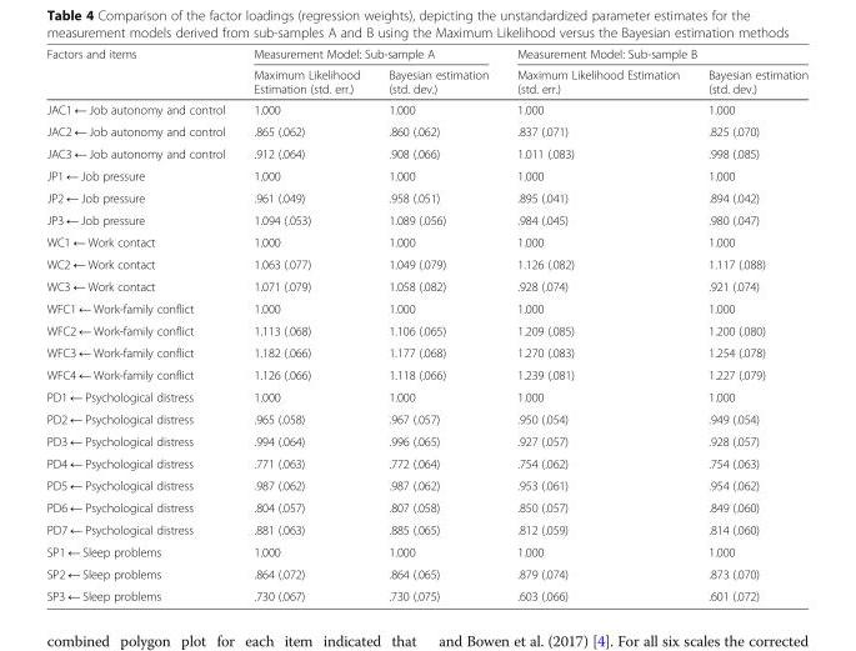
<table><thead><tr><td rowspan="2">Factors and items</td><td colspan="2">Measurement Model: Sub-sample A</td><td colspan="2">Measurement Model: Sub-sample B</td></tr><tr><td>Maximum Likelihood Estimation (std. err.)</td><td>Bayesian estimation (std. dev.)</td><td>Maximum Likelihood Estimation (std. err.)</td><td>Bayesian estimation (std. dev.)</td></tr></thead><tbody><tr><td>JAC1 ← Job autonomy and control</td><td>1.000</td><td>1.000</td><td>1.000</td><td>1.000</td></tr><tr><td>JAC2 ← Job autonomy and control</td><td>.865 (.062)</td><td>.860 (.062)</td><td>.837 (.071)</td><td>.825 (.070)</td></tr><tr><td>JAC3 ← Job autonomy and control</td><td>.912 (.064)</td><td>.908 (.066)</td><td>1.011 (.083)</td><td>.998 (.085)</td></tr><tr><td>JP1 ← Job pressure</td><td>1.000</td><td>1.000</td><td>1.000</td><td>1.000</td></tr><tr><td>JP2 ← Job pressure</td><td>.961 (.049)</td><td>.958 (.051)</td><td>.895 (.041)</td><td>.894 (.042)</td></tr><tr><td>JP3 ← Job pressure</td><td>1.094 (.053)</td><td>1.089 (.056)</td><td>.984 (.045)</td><td>.980 (.047)</td></tr><tr><td>WC1 ← Work contact</td><td>1.000</td><td>1.000</td><td>1.000</td><td>1.000</td></tr><tr><td>WC2 ← Work contact</td><td>1.063 (.077)</td><td>1.049 (.079)</td><td>1.126 (.082)</td><td>1.117 (.088)</td></tr><tr><td>WC3 ← Work contact</td><td>1.071 (.079)</td><td>1.058 (.082)</td><td>.928 (.074)</td><td>.921 (.074)</td></tr><tr><td>WFC1 ← Work-family conflict</td><td>1.000</td><td>1.000</td><td>1.000</td><td>1.000</td></tr><tr><td>WFC2 ← Work-family conflict</td><td>1.113 (.068)</td><td>1.106 (.065)</td><td>1.209 (.085)</td><td>1.200 (.080)</td></tr><tr><td>WFC3 ← Work-family conflict</td><td>1.182 (.066)</td><td>1.177 (.068)</td><td>1.270 (.083)</td><td>1.254 (.078)</td></tr><tr><td>WFC4 ← Work-family conflict</td><td>1.126 (.066)</td><td>1.118 (.066)</td><td>1.239 (.081)</td><td>1.227 (.079)</td></tr><tr><td>PD1 ← Psychological distress</td><td>1.000</td><td>1.000</td><td>1.000</td><td>1.000</td></tr><tr><td>PD2 ← Psychological distress</td><td>.965 (.058)</td><td>.967 (.057)</td><td>.950 (.054)</td><td>.949 (.054)</td></tr><tr><td>PD3 ← Psychological distress</td><td>.994 (.064)</td><td>.996 (.065)</td><td>.927 (.057)</td><td>.928 (.057)</td></tr><tr><td>PD4 ← Psychological distress</td><td>.771 (.063)</td><td>.772 (.064)</td><td>.754 (.062)</td><td>.754 (.063)</td></tr><tr><td>PD5 ← Psychological distress</td><td>.987 (.062)</td><td>.987 (.062)</td><td>.953 (.061)</td><td>.954 (.062)</td></tr><tr><td>PD6 ← Psychological distress</td><td>.804 (.057)</td><td>.807 (.058)</td><td>.850 (.057)</td><td>.849 (.060)</td></tr><tr><td>PD7 ← Psychological distress</td><td>.881 (.063)</td><td>.885 (.065)</td><td>.812 (.059)</td><td>.814 (.060)</td></tr><tr><td>SP1 ← Sleep problems</td><td>1.000</td><td>1.000</td><td>1.000</td><td>1.000</td></tr><tr><td>SP2 ← Sleep problems</td><td>.864 (.072)</td><td>.864 (.065)</td><td>.879 (.074)</td><td>.873 (.070)</td></tr><tr><td>SP3 ← Sleep problems</td><td>.730 (.067)</td><td>.730 (.075)</td><td>.603 (.066)</td><td>.601 (.072)</td></tr></tbody></table>